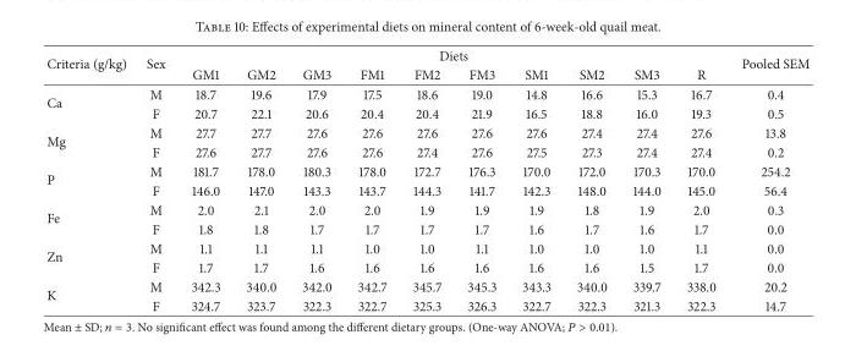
<table><thead><tr><td rowspan="2">Criteria (g/kg)</td><td rowspan="2">Sex</td><td colspan="10">Diets</td><td rowspan="2">Pooled SEM</td></tr><tr><td>GM1</td><td>GM2</td><td>GM3</td><td>FM1</td><td>FM2</td><td>FM3</td><td>SM1</td><td>SM2</td><td>SM3</td><td>R</td></tr></thead><tbody><tr><td rowspan="2">Ca</td><td>M</td><td>18.7</td><td>19.6</td><td>17.9</td><td>17.5</td><td>18.6</td><td>19.0</td><td>14.8</td><td>16.6</td><td>15.3</td><td>16.7</td><td>0.4</td></tr><tr><td>F</td><td>20.7</td><td>22.1</td><td>20.6</td><td>20.4</td><td>20.4</td><td>21.9</td><td>16.5</td><td>18.8</td><td>16.0</td><td>19.3</td><td>0.5</td></tr><tr><td rowspan="2">Mg</td><td>M</td><td>27.7</td><td>27.7</td><td>27.6</td><td>27.6</td><td>27.6</td><td>27.6</td><td>27.6</td><td>27.4</td><td>27.4</td><td>27.6</td><td>13.8</td></tr><tr><td>F</td><td>27.6</td><td>27.7</td><td>27.6</td><td>27.6</td><td>27.4</td><td>27.6</td><td>27.5</td><td>27.3</td><td>27.4</td><td>27.4</td><td>0.2</td></tr><tr><td rowspan="2">P</td><td>M</td><td>181.7</td><td>178.0</td><td>180.3</td><td>178.0</td><td>172.7</td><td>176.3</td><td>170.0</td><td>172.0</td><td>170.3</td><td>170.0</td><td>254.2</td></tr><tr><td>F</td><td>146.0</td><td>147.0</td><td>143.3</td><td>143.7</td><td>144.3</td><td>141.7</td><td>142.3</td><td>148.0</td><td>144.0</td><td>145.0</td><td>56.4</td></tr><tr><td rowspan="2">Fe</td><td>M</td><td>2.0</td><td>2.1</td><td>2.0</td><td>2.0</td><td>1.9</td><td>1.9</td><td>1.9</td><td>1.8</td><td>1.9</td><td>2.0</td><td>0.3</td></tr><tr><td>F</td><td>1.8</td><td>1.8</td><td>1.7</td><td>1.7</td><td>1.7</td><td>1.7</td><td>1.6</td><td>1.7</td><td>1.6</td><td>1.7</td><td>0.0</td></tr><tr><td rowspan="2">Zn</td><td>M</td><td>1.1</td><td>1.1</td><td>1.1</td><td>1.0</td><td>1.0</td><td>1.1</td><td>1.0</td><td>1.0</td><td>1.0</td><td>1.1</td><td>0.0</td></tr><tr><td>F</td><td>1.7</td><td>1.7</td><td>1.6</td><td>1.6</td><td>1.6</td><td>1.6</td><td>1.6</td><td>1.6</td><td>1.5</td><td>1.7</td><td>0.0</td></tr><tr><td rowspan="2">K</td><td>M</td><td>342.3</td><td>340.0</td><td>342.0</td><td>342.7</td><td>345.7</td><td>345.3</td><td>343.3</td><td>340.0</td><td>339.7</td><td>338.0</td><td>20.2</td></tr><tr><td>F</td><td>324.7</td><td>323.7</td><td>322.3</td><td>322.7</td><td>325.3</td><td>326.3</td><td>322.7</td><td>322.3</td><td>321.3</td><td>322.3</td><td>14.7</td></tr></tbody></table>